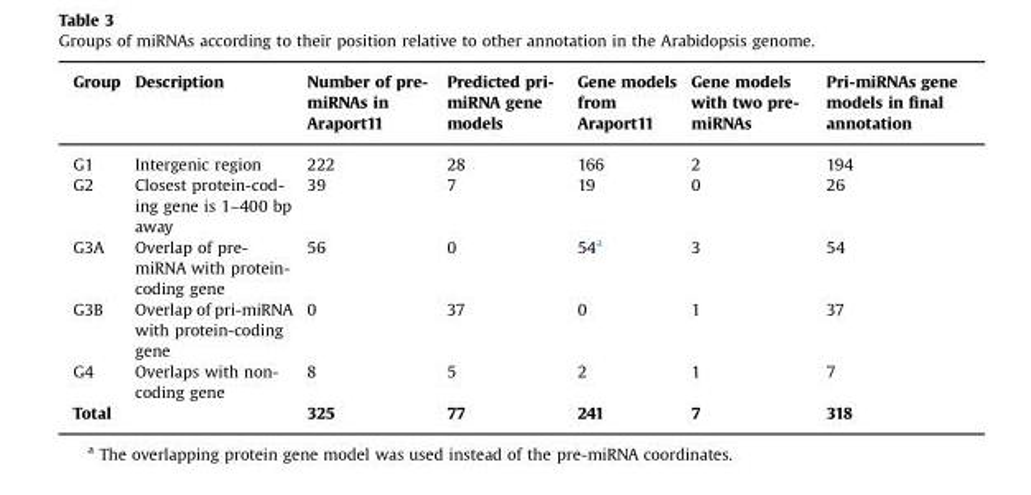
<table><thead><tr><td>Group</td><td>Description</td><td>Number of pre- miRNAs in Araport11</td><td>Predicted pri- miRNA gene models</td><td>Gene models from Araport11</td><td>Gene models with two pre- miRNAs</td><td>Pri-miRNAs gene models in final annotation</td></tr></thead><tbody><tr><td>G1</td><td>Intergenic region</td><td>222</td><td>28</td><td>166</td><td>2</td><td>194</td></tr><tr><td>G2</td><td>Closest protein-cod- ing gene is 1–400 bp away</td><td>39</td><td>7</td><td>19</td><td>0</td><td>26</td></tr><tr><td>G3A</td><td>Overlap of pre- miRNA with protein- coding gene</td><td>56</td><td>0</td><td>54<sup>a</sup></td><td>3</td><td>54</td></tr><tr><td>G3B</td><td>Overlap of pri-miRNA with protein-coding gene</td><td>0</td><td>37</td><td>0</td><td>1</td><td>37</td></tr><tr><td>G4</td><td>Overlaps with non- coding gene</td><td>8</td><td>5</td><td>2</td><td>1</td><td>7</td></tr><tr><td colspan="2">Total</td><td>325</td><td>77</td><td>241</td><td>7</td><td>318</td></tr></tbody></table>